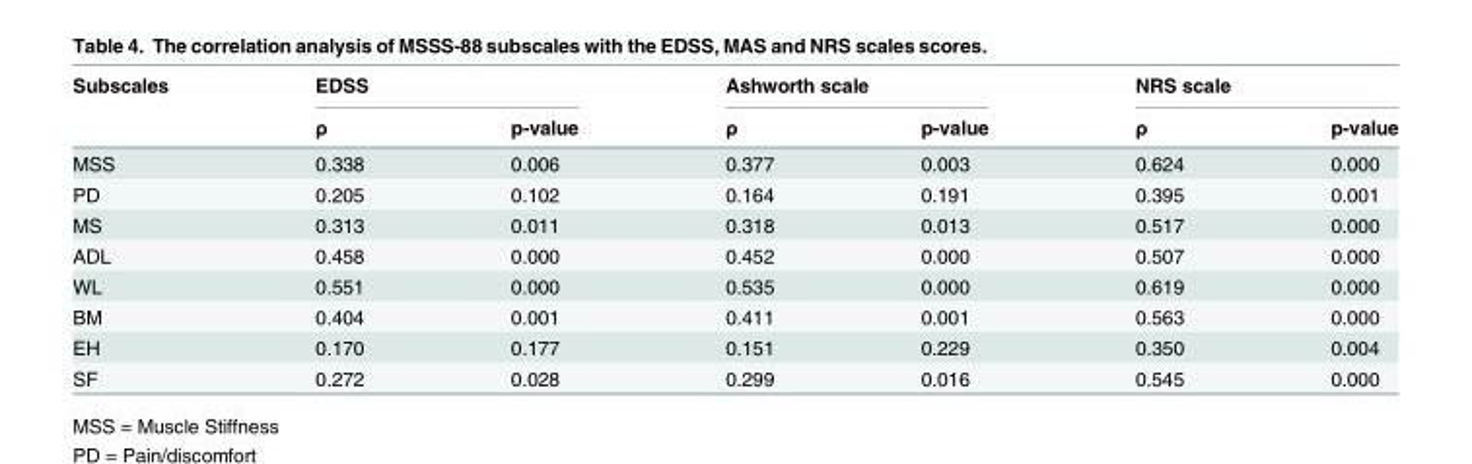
<table><thead><tr><td rowspan="2">Subscales</td><td colspan="2">EDSS</td><td colspan="2">Ashworth scale</td><td colspan="2">NRS scale</td></tr><tr><td>ρ</td><td>p-value</td><td>ρ</td><td>p-value</td><td>ρ</td><td>p-value</td></tr></thead><tbody><tr><td>MSS</td><td>0.338</td><td>0.006</td><td>0.377</td><td>0.003</td><td>0.624</td><td>0.000</td></tr><tr><td>PD</td><td>0.205</td><td>0.102</td><td>0.164</td><td>0.191</td><td>0.395</td><td>0.001</td></tr><tr><td>MS</td><td>0.313</td><td>0.011</td><td>0.318</td><td>0.013</td><td>0.517</td><td>0.000</td></tr><tr><td>ADL</td><td>0.458</td><td>0.000</td><td>0.452</td><td>0.000</td><td>0.507</td><td>0.000</td></tr><tr><td>WL</td><td>0.551</td><td>0.000</td><td>0.535</td><td>0.000</td><td>0.619</td><td>0.000</td></tr><tr><td>BM</td><td>0.404</td><td>0.001</td><td>0.411</td><td>0.001</td><td>0.563</td><td>0.000</td></tr><tr><td>EH</td><td>0.170</td><td>0.177</td><td>0.151</td><td>0.229</td><td>0.350</td><td>0.004</td></tr><tr><td>SF</td><td>0.272</td><td>0.028</td><td>0.299</td><td>0.016</td><td>0.545</td><td>0.000</td></tr></tbody></table>